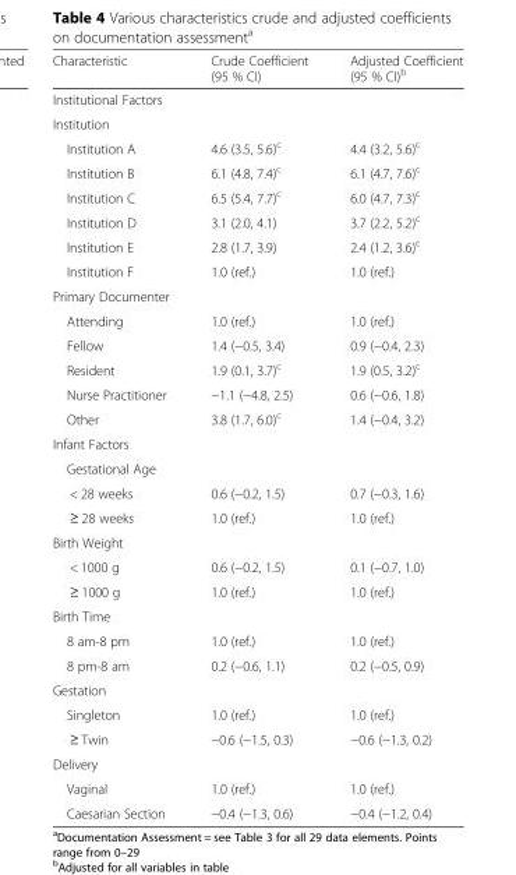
<table><thead><tr><td>Characteristic</td><td>Crude Coefficient (95 % CI)</td><td>Adjusted Coefficient (95 % CI)<sup>b</sup></td></tr></thead><tbody><tr><td colspan="3">Institutional Factors</td></tr><tr><td colspan="3">Institution</td></tr><tr><td>Institution A</td><td>4.6 (3.5, 5.6)<sup>c</sup></td><td>4.4 (3.2, 5.6)<sup>c</sup></td></tr><tr><td>Institution B</td><td>6.1 (4.8, 7.4)<sup>c</sup></td><td>6.1 (4.7, 7.6)<sup>c</sup></td></tr><tr><td>Institution C</td><td>6.5 (5.4, 7.7)<sup>c</sup></td><td>6.0 (4.7, 7.3)<sup>c</sup></td></tr><tr><td>Institution D</td><td>3.1 (2.0, 4.1)</td><td>3.7 (2.2, 5.2)<sup>c</sup></td></tr><tr><td>Institution E</td><td>2.8 (1.7, 3.9)</td><td>2.4 (1.2, 3.6)<sup>c</sup></td></tr><tr><td>Institution F</td><td>1.0 (ref.)</td><td>1.0 (ref.)</td></tr><tr><td colspan="3">Primary Documenter</td></tr><tr><td>Attending</td><td>1.0 (ref.)</td><td>1.0 (ref.)</td></tr><tr><td>Fellow</td><td>1.4 (−0.5, 3.4)</td><td>0.9 (−0.4, 2.3)</td></tr><tr><td>Resident</td><td>1.9 (0.1, 3.7)<sup>c</sup></td><td>1.9 (0.5, 3.2)<sup>c</sup></td></tr><tr><td>Nurse Practitioner</td><td>−1.1 (−4.8, 2.5)</td><td>0.6 (−0.6, 1.8)</td></tr><tr><td>Other</td><td>3.8 (1.7, 6.0)<sup>c</sup></td><td>1.4 (−0.4, 3.2)</td></tr><tr><td colspan="3">Infant Factors</td></tr><tr><td colspan="3">Gestational Age</td></tr><tr><td>&lt; 28 weeks</td><td>0.6 (−0.2, 1.5)</td><td>0.7 (−0.3, 1.6)</td></tr><tr><td>≥ 28 weeks</td><td>1.0 (ref.)</td><td>1.0 (ref.)</td></tr><tr><td colspan="3">Birth Weight</td></tr><tr><td>&lt; 1000 g</td><td>0.6 (−0.2, 1.5)</td><td>0.1 (−0.7, 1.0)</td></tr><tr><td>≥ 1000 g</td><td>1.0 (ref.)</td><td>1.0 (ref.)</td></tr><tr><td colspan="3">Birth Time</td></tr><tr><td>8 am-8 pm</td><td>1.0 (ref.)</td><td>1.0 (ref.)</td></tr><tr><td>8 pm-8 am</td><td>0.2 (−0.6, 1.1)</td><td>0.2 (−0.5, 0.9)</td></tr><tr><td colspan="3">Gestation</td></tr><tr><td>Singleton</td><td>1.0 (ref.)</td><td>1.0 (ref.)</td></tr><tr><td>≥ Twin</td><td>−0.6 (−1.5, 0.3)</td><td>−0.6 (−1.3, 0.2)</td></tr><tr><td colspan="3">Delivery</td></tr><tr><td>Vaginal</td><td>1.0 (ref.)</td><td>1.0 (ref.)</td></tr><tr><td>Caesarian Section</td><td>−0.4 (−1.3, 0.6)</td><td>−0.4 (−1.2, 0.4)</td></tr></tbody></table>